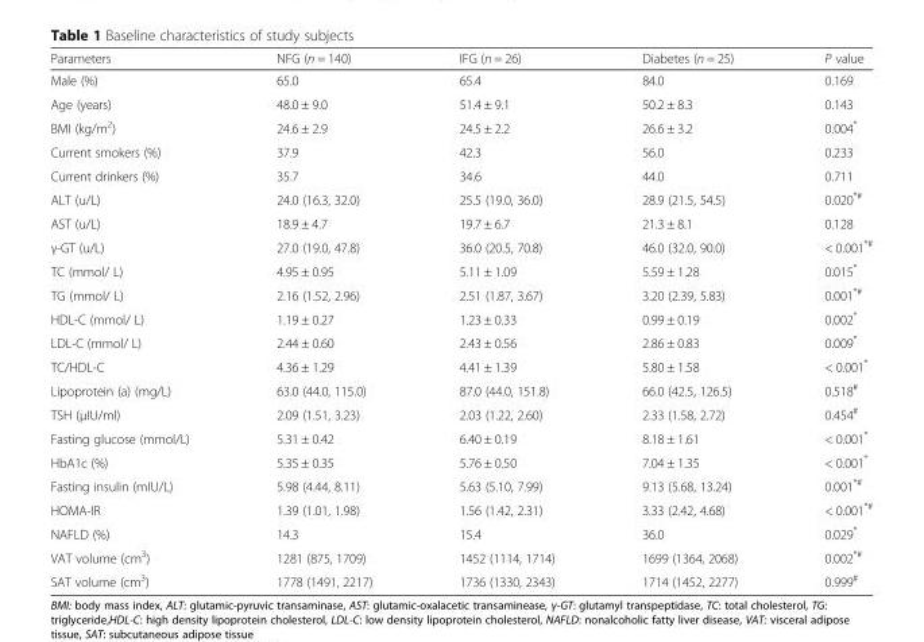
<table><thead><tr><td>Parameters</td><td>NFG (n = 140)</td><td>IFG (n = 26)</td><td>Diabetes (n = 25)</td><td>P value</td></tr></thead><tbody><tr><td>Male (%)</td><td>65.0</td><td>65.4</td><td>84.0</td><td>0.169</td></tr><tr><td>Age (years)</td><td>48.0 ± 9.0</td><td>51.4 ± 9.1</td><td>50.2 ± 8.3</td><td>0.143</td></tr><tr><td>BMI (kg/m<sup>2</sup>)</td><td>24.6 ± 2.9</td><td>24.5 ± 2.2</td><td>26.6 ± 3.2</td><td>0.004*</td></tr><tr><td>Current smokers (%)</td><td>37.9</td><td>42.3</td><td>56.0</td><td>0.233</td></tr><tr><td>Current drinkers (%)</td><td>35.7</td><td>34.6</td><td>44.0</td><td>0.711</td></tr><tr><td>ALT (u/L)</td><td>24.0 (16.3, 32.0)</td><td>25.5 (19.0, 36.0)</td><td>28.9 (21.5, 54.5)</td><td>0.020<sup>*#</sup></td></tr><tr><td>AST (u/L)</td><td>18.9 ± 4.7</td><td>19.7 ± 6.7</td><td>21.3 ± 8.1</td><td>0.128</td></tr><tr><td>γ-GT (u/L)</td><td>27.0 (19.0, 47.8)</td><td>36.0 (20.5, 70.8)</td><td>46.0 (32.0, 90.0)</td><td>&lt; 0.001<sup>*#</sup></td></tr><tr><td>TC (mmol/ L)</td><td>4.95 ± 0.95</td><td>5.11 ± 1.09</td><td>5.59 ± 1.28</td><td>0.015*</td></tr><tr><td>TG (mmol/ L)</td><td>2.16 (1.52, 2.96)</td><td>2.51 (1.87, 3.67)</td><td>3.20 (2.39, 5.83)</td><td>0.001<sup>*#</sup></td></tr><tr><td>HDL-C (mmol/ L)</td><td>1.19 ± 0.27</td><td>1.23 ± 0.33</td><td>0.99 ± 0.19</td><td>0.002*</td></tr><tr><td>LDL-C (mmol/ L)</td><td>2.44 ± 0.60</td><td>2.43 ± 0.56</td><td>2.86 ± 0.83</td><td>0.009*</td></tr><tr><td>TC/HDL-C</td><td>4.36 ± 1.29</td><td>4.41 ± 1.39</td><td>5.80 ± 1.58</td><td>&lt; 0.001*</td></tr><tr><td>Lipoprotein (a) (mg/L)</td><td>63.0 (44.0, 115.0)</td><td>87.0 (44.0, 151.8)</td><td>66.0 (42.5, 126.5)</td><td>0.518<sup>#</sup></td></tr><tr><td>TSH (μIU/ml)</td><td>2.09 (1.51, 3.23)</td><td>2.03 (1.22, 2.60)</td><td>2.33 (1.58, 2.72)</td><td>0.454<sup>#</sup></td></tr><tr><td>Fasting glucose (mmol/L)</td><td>5.31 ± 0.42</td><td>6.40 ± 0.19</td><td>8.18 ± 1.61</td><td>&lt; 0.001*</td></tr><tr><td>HbA1c (%)</td><td>5.35 ± 0.35</td><td>5.76 ± 0.50</td><td>7.04 ± 1.35</td><td>&lt; 0.001*</td></tr><tr><td>Fasting insulin (mIU/L)</td><td>5.98 (4.44, 8.11)</td><td>5.63 (5.10, 7.99)</td><td>9.13 (5.68, 13.24)</td><td>0.001<sup>*#</sup></td></tr><tr><td>HOMA-IR</td><td>1.39 (1.01, 1.98)</td><td>1.56 (1.42, 2.31)</td><td>3.33 (2.42, 4.68)</td><td>&lt; 0.001<sup>*#</sup></td></tr><tr><td>NAFLD (%)</td><td>14.3</td><td>15.4</td><td>36.0</td><td>0.029*</td></tr><tr><td>VAT volume (cm<sup>3</sup>)</td><td>1281 (875, 1709)</td><td>1452 (1114, 1714)</td><td>1699 (1364, 2068)</td><td>0.002<sup>*#</sup></td></tr><tr><td>SAT volume (cm<sup>3</sup>)</td><td>1778 (1491, 2217)</td><td>1736 (1330, 2343)</td><td>1714 (1452, 2277)</td><td>0.999<sup>#</sup></td></tr></tbody></table>